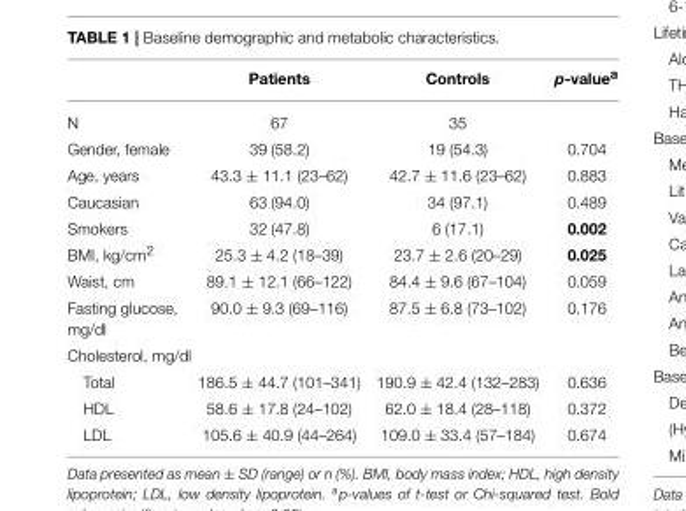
<table><thead><tr><td></td><td>Patients</td><td>Controls</td><td>p-value<sup>a</sup></td></tr></thead><tbody><tr><td>N</td><td>67</td><td>35</td><td></td></tr><tr><td>Gender, female</td><td>39 (58.2)</td><td>19 (54.3)</td><td>0.704</td></tr><tr><td>Age, years</td><td>43.3 ± 11.1 (23–62)</td><td>42.7 ± 11.6 (23–62)</td><td>0.883</td></tr><tr><td>Caucasian</td><td>63 (94.0)</td><td>34 (97.1)</td><td>0.489</td></tr><tr><td>Smokers</td><td>32 (47.8)</td><td>6 (17.1)</td><td>0.002</td></tr><tr><td>BMI, kg/cm<sup>2</sup></td><td>25.3 ± 4.2 (18–39)</td><td>23.7 ± 2.6 (20–29)</td><td>0.025</td></tr><tr><td>Waist, cm</td><td>89.1 ± 12.1 (66–122)</td><td>84.4 ± 9.6 (67–104)</td><td>0.059</td></tr><tr><td>Fasting glucose, mg/dl</td><td>90.0 ± 9.3 (69–116)</td><td>87.5 ± 6.8 (73–102)</td><td>0.176</td></tr><tr><td colspan="4">Cholesterol, mg/dl</td></tr><tr><td>Total</td><td>186.5 ± 44.7 (101–341)</td><td>190.9 ± 42.4 (132–283)</td><td>0.636</td></tr><tr><td>HDL</td><td>58.6 ± 17.8 (24–102)</td><td>62.0 ± 18.4 (28–118)</td><td>0.372</td></tr><tr><td>LDL</td><td>105.6 ± 40.9 (44–264)</td><td>109.0 ± 33.4 (57–184)</td><td>0.674</td></tr></tbody></table>